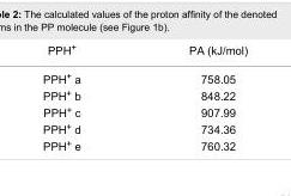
<table><tbody><tr><td>PPH<sup>+</sup></td><td>PA (kJ/mol)</td></tr><tr><td>PPH<sup>+</sup> a</td><td>758.05</td></tr><tr><td>PPH<sup>+</sup> b</td><td>848.22</td></tr><tr><td>PPH<sup>+</sup> c</td><td>907.99</td></tr><tr><td>PPH<sup>+</sup> d</td><td>734.36</td></tr><tr><td>PPH<sup>+</sup> e</td><td>760.32</td></tr></tbody></table>